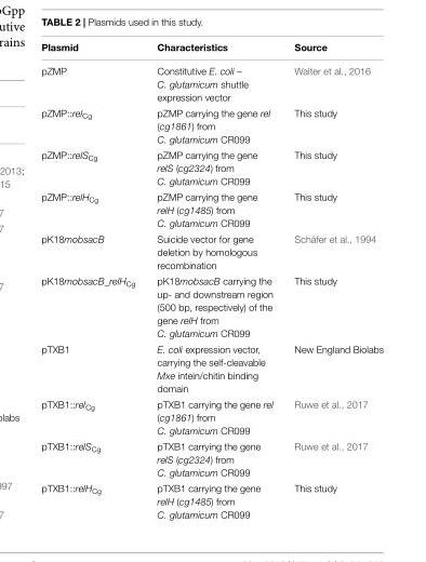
<table><thead><tr><td>Plasmid</td><td>Characteristics</td><td>Source</td></tr></thead><tbody><tr><td>pZMP</td><td>Constitutive E. coli – C. glutamicum shuttle expression vector</td><td>Walter et al., 2016</td></tr><tr><td>pZMP::rel<sub>Cg</sub></td><td>pZMP carrying the gene rel (cg1861) from C. glutamicum CR099</td><td>This study</td></tr><tr><td>pZMP::relS<sub>Cg</sub></td><td>pZMP carrying the gene relS (cg2324) from C. glutamicum CR099</td><td>This study</td></tr><tr><td>pZMP::relH<sub>Cg</sub></td><td>pZMP carrying the gene relH (cg1485) from C. glutamicum CR099</td><td>This study</td></tr><tr><td>pK18mobsacB</td><td>Suicide vector for gene deletion by homologous recombination</td><td>Schäfer et al., 1994</td></tr><tr><td>pK18mobsacB_relH<sub>Cg</sub></td><td>pK18mobsacB carrying the up- and downstream region (500 bp, respectively) of the gene relH from C. glutamicum CR099</td><td>This study</td></tr><tr><td>pTXB1</td><td>E. coli expression vector, carrying the self-cleavable Mxe intein/chitin binding domain</td><td>New England Biolabs</td></tr><tr><td>pTXB1::rel<sub>Cg</sub></td><td>pTXB1 carrying the gene rel (cg1861) from C. glutamicum CR099</td><td>Ruwe et al., 2017</td></tr><tr><td>pTXB1::relS<sub>Cg</sub></td><td>pTXB1 carrying the gene relS (cg2324) from C. glutamicum CR099</td><td>Ruwe et al., 2017</td></tr><tr><td>pTXB1::relH<sub>Cg</sub></td><td>pTXB1 carrying the gene relH (cg1485) from C. glutamicum CR099</td><td>This study</td></tr></tbody></table>